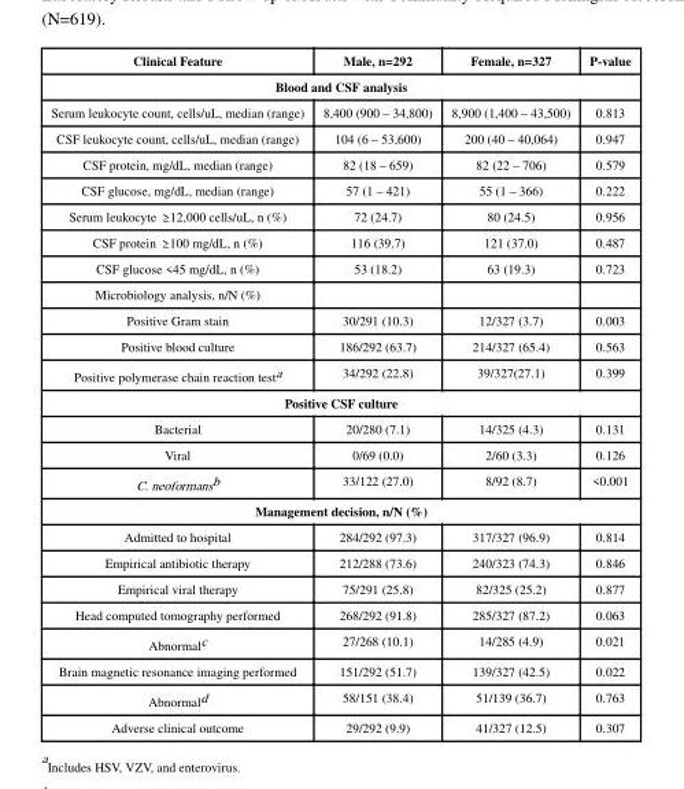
<table><thead><tr><td>Clinical Feature</td><td>Male, n=292</td><td>Female, n=327</td><td>P-value</td></tr></thead><tbody><tr><td colspan="4">Blood and CSF analysis</td></tr><tr><td>Serum leukocyte count, cells/uL, median (range)</td><td>8,400 (900 – 34,800)</td><td>8,900 (1,400 – 43,500)</td><td>0.813</td></tr><tr><td>CSF leukocyte count, cells/uL, median (range)</td><td>104 (6 – 53,600)</td><td>200 (40 – 40,064)</td><td>0.947</td></tr><tr><td>CSF protein, mg/dL, median (range)</td><td>82 (18 – 659)</td><td>82 (22 – 706)</td><td>0.579</td></tr><tr><td>CSF glucose, mg/dL, median (range)</td><td>57 (1 – 421)</td><td>55 (1 – 366)</td><td>0.222</td></tr><tr><td>Serum leukocyte ≥ 12,000 cells/uL, n (%)</td><td>72 (24.7)</td><td>80 (24.5)</td><td>0.956</td></tr><tr><td>CSF protein ≥ 100 mg/dL, n (%)</td><td>116 (39.7)</td><td>121 (37.0)</td><td>0.487</td></tr><tr><td>CSF glucose &lt;45 mg/dL, n (%)</td><td>53 (18.2)</td><td>63 (19.3)</td><td>0.723</td></tr><tr><td colspan="4">Microbiology analysis, n/N (%)</td></tr><tr><td>Positive Gram stain</td><td>30/291 (10.3)</td><td>12/327 (3.7)</td><td>0.003</td></tr><tr><td>Positive blood culture</td><td>186/292 (63.7)</td><td>214/327 (65.4)</td><td>0.563</td></tr><tr><td>Positive polymerase chain reaction test<sup>a</sup></td><td>34/292 (22.8)</td><td>39/327(27.1)</td><td>0.399</td></tr><tr><td colspan="4">Positive CSF culture</td></tr><tr><td>Bacterial</td><td>20/280 (7.1)</td><td>14/325 (4.3)</td><td>0.131</td></tr><tr><td>Viral</td><td>0/69 (0.0)</td><td>2/60 (3.3)</td><td>0.126</td></tr><tr><td>C. neoformans<sup>b</sup></td><td>33/122 (27.0)</td><td>8/92 (8.7)</td><td>&lt;0.001</td></tr><tr><td colspan="4">Management decision, n/N (%)</td></tr><tr><td>Admitted to hospital</td><td>284/292 (97.3)</td><td>317/327 (96.9)</td><td>0.814</td></tr><tr><td>Empirical antibiotic therapy</td><td>212/288 (73.6)</td><td>240/323 (74.3)</td><td>0.846</td></tr><tr><td>Empirical viral therapy</td><td>75/291 (25.8)</td><td>82/325 (25.2)</td><td>0.877</td></tr><tr><td>Head computed tomography performed</td><td>268/292 (91.8)</td><td>285/327 (87.2)</td><td>0.063</td></tr><tr><td>Abnormal<sup>c</sup></td><td>27/268 (10.1)</td><td>14/285 (4.9)</td><td>0.021</td></tr><tr><td>Brain magnetic resonance imaging performed</td><td>151/292 (51.7)</td><td>139/327 (42.5)</td><td>0.022</td></tr><tr><td>Abnormal<sup>d</sup></td><td>58/151 (38.4)</td><td>51/139 (36.7)</td><td>0.763</td></tr><tr><td>Adverse clinical outcome</td><td>29/292 (9.9)</td><td>41/327 (12.5)</td><td>0.307</td></tr></tbody></table>